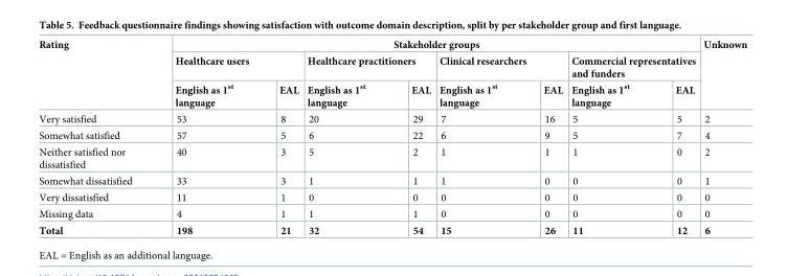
<table><thead><tr><td rowspan="3">Rating</td><td colspan="8">Stakeholder groups</td><td rowspan="3">Unknown</td></tr><tr><td colspan="2">Healthcare users</td><td colspan="2">Healthcare practitioners</td><td colspan="2">Clinical researchers</td><td colspan="2">Commercial representatives and funders</td></tr><tr><td>English as 1<sup>st</sup> language</td><td>EAL</td><td>English as 1<sup>st</sup> language</td><td>EAL</td><td>English as 1<sup>st</sup> language</td><td>EAL</td><td>English as 1<sup>st</sup> language</td><td>EAL</td></tr></thead><tbody><tr><td>Very satisfied</td><td>53</td><td>8</td><td>20</td><td>29</td><td>7</td><td>16</td><td>5</td><td>5</td><td>2</td></tr><tr><td>Somewhat satisfied</td><td>57</td><td>5</td><td>6</td><td>22</td><td>6</td><td>9</td><td>5</td><td>7</td><td>4</td></tr><tr><td>Neither satisfied nor dissatisfied</td><td>40</td><td>3</td><td>5</td><td>2</td><td>1</td><td>1</td><td>1</td><td>0</td><td>2</td></tr><tr><td>Somewhat dissatisfied</td><td>33</td><td>3</td><td>1</td><td>1</td><td>1</td><td>0</td><td>0</td><td>0</td><td>1</td></tr><tr><td>Very dissatisfied</td><td>11</td><td>1</td><td>0</td><td>0</td><td>0</td><td>0</td><td>0</td><td>0</td><td>0</td></tr><tr><td>Missing data</td><td>4</td><td>1</td><td>1</td><td>1</td><td>0</td><td>0</td><td>0</td><td>0</td><td>0</td></tr><tr><td>Total</td><td>198</td><td>21</td><td>32</td><td>54</td><td>15</td><td>26</td><td>11</td><td>12</td><td>6</td></tr></tbody></table>